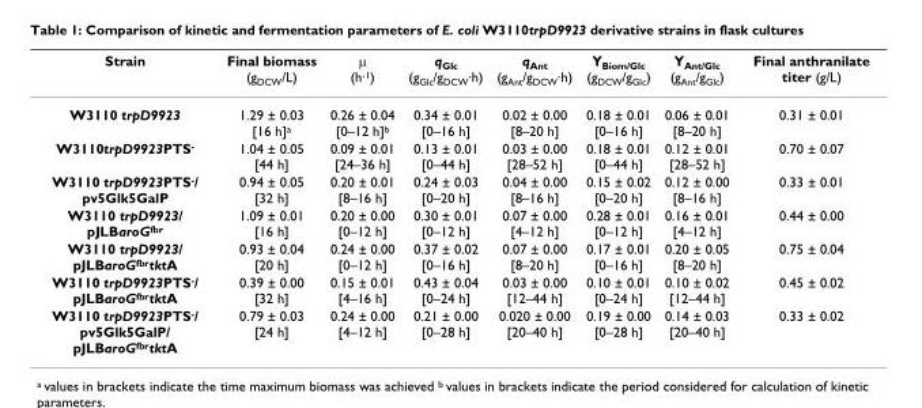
<table><thead><tr><td>Strain</td><td>Final biomass (g<sub>DCW</sub>/L)</td><td>μ (h<sup>-1</sup>)</td><td>q<sub>Glc</sub> (g<sub>Glc</sub>/g<sub>DCW</sub>·h)</td><td>q<sub>Ant</sub> (g<sub>Ant</sub>/g<sub>DCW</sub>·h)</td><td>Y<sub>Biom/Glc</sub> (g<sub>DCW</sub>/g<sub>Glc</sub>)</td><td>Y<sub>Ant/Glc</sub> (g<sub>Ant</sub>/g<sub>Glc</sub>)</td><td>Final anthranilate titer (g/L)</td></tr></thead><tbody><tr><td>W3110 trpD9923</td><td>1.29 ± 0.03 [16 h]<sup>a</sup></td><td>0.26 ± 0.04 [0–12 h]<sup>b</sup></td><td>0.34 ± 0.01 [0–16 h]</td><td>0.02 ± 0.00 [8–20 h]</td><td>0.18 ± 0.01 [0–16 h]</td><td>0.06 ± 0.01 [8–20 h]</td><td>0.31 ± 0.01</td></tr><tr><td>W3110trpD9923PTS<sup>-</sup></td><td>1.04 ± 0.05 [44 h]</td><td>0.09 ± 0.01 [24–36 h]</td><td>0.13 ± 0.01 [0–44 h]</td><td>0.03 ± 0.00 [28–52 h]</td><td>0.18 ± 0.01 [0–44 h]</td><td>0.12 ± 0.01 [28–52 h]</td><td>0.70 ± 0.07</td></tr><tr><td>W3110 trpD9923PTS<sup>-</sup>/ pv5Glk5GalP</td><td>0.94 ± 0.05 [32 h]</td><td>0.20 ± 0.01 [8–16 h]</td><td>0.24 ± 0.03 [0–20 h]</td><td>0.04 ± 0.00 [8–16 h]</td><td>0.15 ± 0.02 [0–20 h]</td><td>0.12 ± 0.00 [8–16 h]</td><td>0.33 ± 0.01</td></tr><tr><td>W3110 trpD9923/ pJLBaroG<sup>fbr</sup></td><td>1.09 ± 0.01 [16 h]</td><td>0.20 ± 0.00 [0–12 h]</td><td>0.30 ± 0.01 [0–12 h]</td><td>0.07 ± 0.00 [4–12 h]</td><td>0.28 ± 0.01 [0–12 h]</td><td>0.16 ± 0.01 [4–12 h]</td><td>0.44 ± 0.00</td></tr><tr><td>W3110 trpD9923/ pJLBaroG<sup>fbr</sup>tktA</td><td>0.93 ± 0.04 [20 h]</td><td>0.24 ± 0.00 [0–12 h]</td><td>0.37 ± 0.02 [0–16 h]</td><td>0.07 ± 0.00 [8–20 h]</td><td>0.17 ± 0.01 [0–16 h]</td><td>0.20 ± 0.05 [8–20 h]</td><td>0.75 ± 0.04</td></tr><tr><td>W3110 trpD9923PTS<sup>-</sup>/ pJLBaroG<sup>fbr</sup>tktA</td><td>0.39 ± 0.00 [32 h]</td><td>0.15 ± 0.01 [4–16 h]</td><td>0.43 ± 0.04 [0–24 h]</td><td>0.03 ± 0.00 [12–44 h]</td><td>0.10 ± 0.01 [0–24 h]</td><td>0.10 ± 0.02 [12–44 h]</td><td>0.45 ± 0.02</td></tr><tr><td>W3110 trpD9923PTS<sup>-</sup>/ pv5Glk5GalP/ pJLBaroG<sup>fbr</sup>tktA</td><td>0.79 ± 0.03 [24 h]</td><td>0.24 ± 0.00 [4–12 h]</td><td>0.21 ± 0.00 [0–28 h]</td><td>0.020 ± 0.00 [20–40 h]</td><td>0.19 ± 0.00 [0–28 h]</td><td>0.14 ± 0.03 [20–40 h]</td><td>0.33 ± 0.02</td></tr></tbody></table>